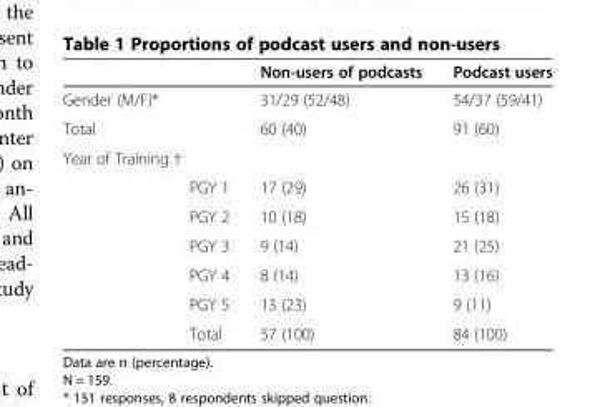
<table><thead><tr><td></td><td></td><td>Non-users of podcasts</td><td>Podcast users</td></tr></thead><tbody><tr><td>Gender (M/F)*</td><td rowspan="2"></td><td>31/29 (52/48)</td><td>54/37 (59/41)</td></tr><tr><td>Total</td><td>60 (40)</td><td>91 (60)</td></tr><tr><td colspan="4">Year of Training †</td></tr><tr><td rowspan="5"></td><td>PGY 1</td><td>17 (29)</td><td>26 (31)</td></tr><tr><td>PGY 2</td><td>10 (18)</td><td>15 (18)</td></tr><tr><td>PGY 3</td><td>9 (14)</td><td>21 (25)</td></tr><tr><td>PGY 4</td><td>8 (14)</td><td>13 (16)</td></tr><tr><td>PGY 5</td><td>13 (23)</td><td>9 (11)</td></tr><tr><td></td><td>Total</td><td>57 (100)</td><td>84 (100)</td></tr></tbody></table>